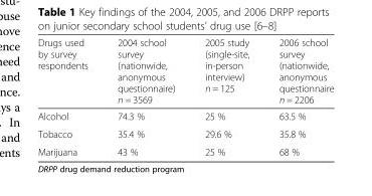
<table><thead><tr><td>Drugs used by survey respondents</td><td>2004 school survey (nationwide, anonymous questionnaire) n = 3569</td><td>2005 study (single-site, in-person interview) n = 125</td><td>2006 school survey (nationwide, anonymous questionnaire n = 2206</td></tr></thead><tbody><tr><td>Alcohol</td><td>74.3 %</td><td>25 %</td><td>63.5 %</td></tr><tr><td>Tobacco</td><td>35.4 %</td><td>29.6 %</td><td>35.8 %</td></tr><tr><td>Marijuana</td><td>43 %</td><td>25 %</td><td>68 %</td></tr></tbody></table>